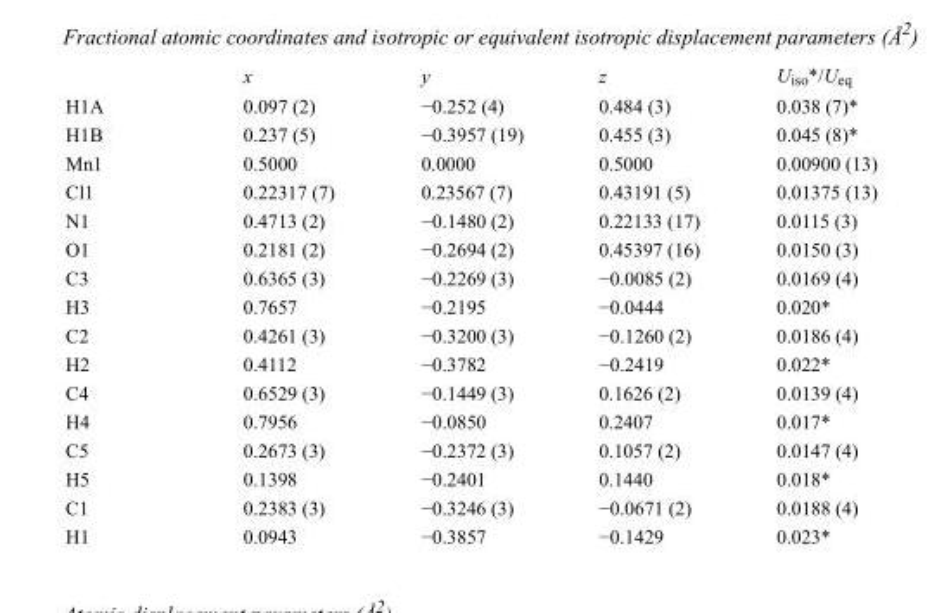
<table><thead><tr><td></td><td>x</td><td>y</td><td>z</td><td>U<sub>iso</sub>*/U<sub>eq</sub></td></tr></thead><tbody><tr><td>H1A</td><td>0.097 (2)</td><td>−0.252 (4)</td><td>0.484 (3)</td><td>0.038 (7)*</td></tr><tr><td>H1B</td><td>0.237 (5)</td><td>−0.3957 (19)</td><td>0.455 (3)</td><td>0.045 (8)*</td></tr><tr><td>Mn1</td><td>0.5000</td><td>0.0000</td><td>0.5000</td><td>0.00900 (13)</td></tr><tr><td>Cl1</td><td>0.22317 (7)</td><td>0.23567 (7)</td><td>0.43191 (5)</td><td>0.01375 (13)</td></tr><tr><td>N1</td><td>0.4713 (2)</td><td>−0.1480 (2)</td><td>0.22133 (17)</td><td>0.0115 (3)</td></tr><tr><td>O1</td><td>0.2181 (2)</td><td>−0.2694 (2)</td><td>0.45397 (16)</td><td>0.0150 (3)</td></tr><tr><td>C3</td><td>0.6365 (3)</td><td>−0.2269 (3)</td><td>−0.0085 (2)</td><td>0.0169 (4)</td></tr><tr><td>H3</td><td>0.7657</td><td>−0.2195</td><td>−0.0444</td><td>0.020*</td></tr><tr><td>C2</td><td>0.4261 (3)</td><td>−0.3200 (3)</td><td>−0.1260 (2)</td><td>0.0186 (4)</td></tr><tr><td>H2</td><td>0.4112</td><td>−0.3782</td><td>−0.2419</td><td>0.022*</td></tr><tr><td>C4</td><td>0.6529 (3)</td><td>−0.1449 (3)</td><td>0.1626 (2)</td><td>0.0139 (4)</td></tr><tr><td>H4</td><td>0.7956</td><td>−0.0850</td><td>0.2407</td><td>0.017*</td></tr><tr><td>C5</td><td>0.2673 (3)</td><td>−0.2372 (3)</td><td>0.1057 (2)</td><td>0.0147 (4)</td></tr><tr><td>H5</td><td>0.1398</td><td>−0.2401</td><td>0.1440</td><td>0.018*</td></tr><tr><td>C1</td><td>0.2383 (3)</td><td>−0.3246 (3)</td><td>−0.0671 (2)</td><td>0.0188 (4)</td></tr><tr><td>H1</td><td>0.0943</td><td>−0.3857</td><td>−0.1429</td><td>0.023*</td></tr></tbody></table>